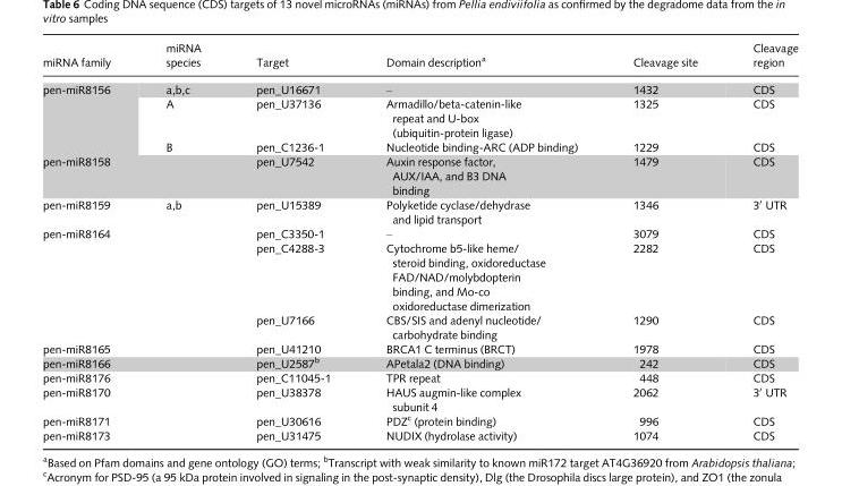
<table><thead><tr><td>miRNA family</td><td>miRNA species</td><td>Target</td><td>Domain description<sup>a</sup></td><td>Cleavage site</td><td>Cleavage region</td></tr></thead><tbody><tr><td rowspan="3">pen-miR8156</td><td>a,b,c</td><td>pen_U16671</td><td>–</td><td>1432</td><td>CDS</td></tr><tr><td>A</td><td>pen_U37136</td><td>Armadillo/beta-catenin-like repeat and U-box (ubiquitin-protein ligase)</td><td>1325</td><td>CDS</td></tr><tr><td>B</td><td>pen_C1236-1</td><td>Nucleotide binding-ARC (ADP binding)</td><td>1229</td><td>CDS</td></tr><tr><td>pen-miR8158</td><td></td><td>pen_U7542</td><td>Auxin response factor, AUX/IAA, and B3 DNA binding</td><td>1479</td><td>CDS</td></tr><tr><td>pen-miR8159</td><td>a,b</td><td>pen_U15389</td><td>Polyketide cyclase/dehydrase and lipid transport</td><td>1346</td><td>3′ UTR</td></tr><tr><td rowspan="3">pen-miR8164</td><td></td><td>pen_C3350-1</td><td>–</td><td>3079</td><td>CDS</td></tr><tr><td></td><td>pen_C4288-3</td><td>Cytochrome b5-like heme/ steroid binding, oxidoreductase FAD/NAD/molybdopterin binding, and Mo-co oxidoreductase dimerization</td><td>2282</td><td>CDS</td></tr><tr><td></td><td>pen_U7166</td><td>CBS/SIS and adenyl nucleotide/ carbohydrate binding</td><td>1290</td><td>CDS</td></tr><tr><td>pen-miR8165</td><td></td><td>pen_U41210</td><td>BRCA1 C terminus (BRCT)</td><td>1978</td><td>CDS</td></tr><tr><td>pen-miR8166</td><td></td><td>pen_U2587<sup>b</sup></td><td>APetala2 (DNA binding)</td><td>242</td><td>CDS</td></tr><tr><td>pen-miR8176</td><td></td><td>pen_C11045-1</td><td>TPR repeat</td><td>448</td><td>CDS</td></tr><tr><td>pen-miR8170</td><td></td><td>pen_U38378</td><td>HAUS augmin-like complex subunit 4</td><td>2062</td><td>3′ UTR</td></tr><tr><td>pen-miR8171</td><td></td><td>pen_U30616</td><td>PDZ<sup>c</sup> (protein binding)</td><td>996</td><td>CDS</td></tr><tr><td>pen-miR8173</td><td></td><td>pen_U31475</td><td>NUDIX (hydrolase activity)</td><td>1074</td><td>CDS</td></tr></tbody></table>